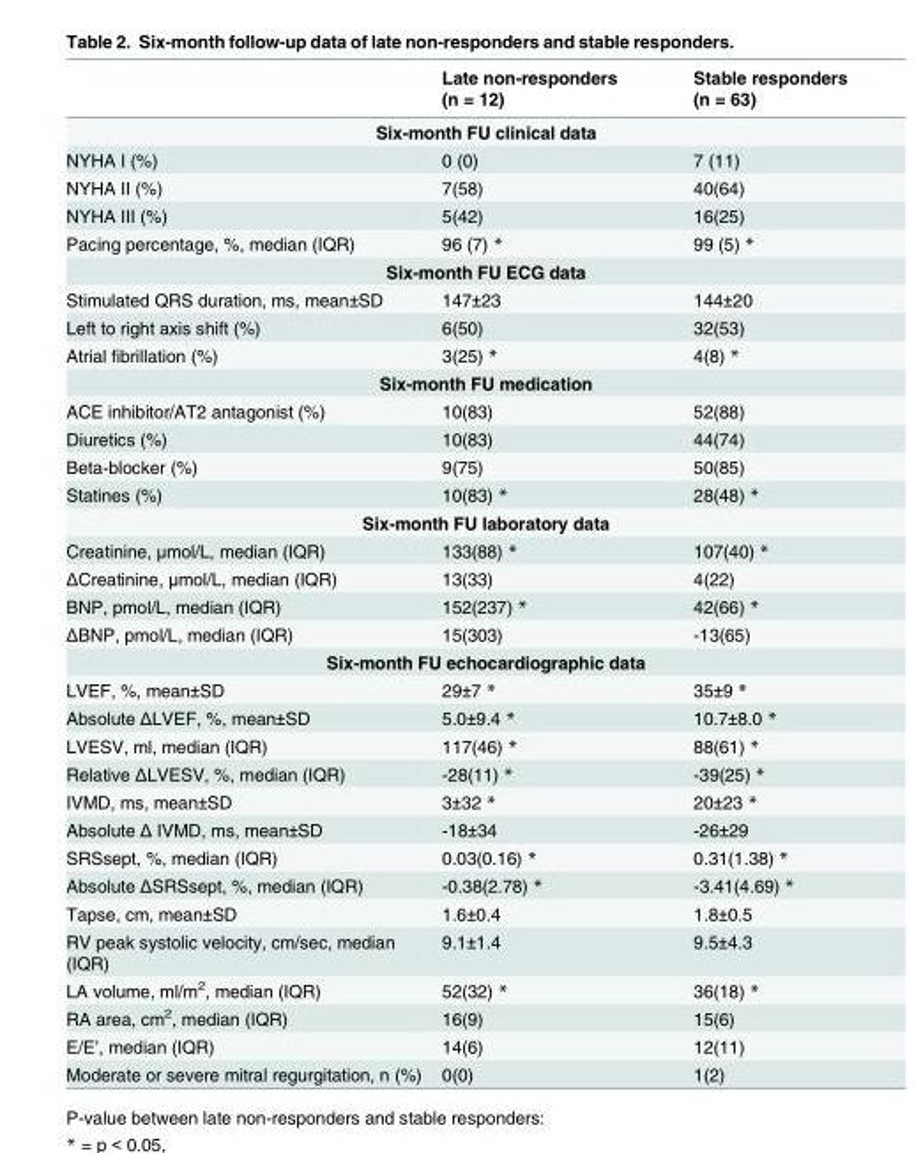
<table><thead><tr><td></td><td>Late non-responders (n = 12)</td><td>Stable responders (n = 63)</td></tr></thead><tbody><tr><td colspan="3">Six-month FU clinical data</td></tr><tr><td>NYHA I (%)</td><td>0 (0)</td><td>7 (11)</td></tr><tr><td>NYHA II (%)</td><td>7(58)</td><td>40(64)</td></tr><tr><td>NYHA III (%)</td><td>5(42)</td><td>16(25)</td></tr><tr><td>Pacing percentage, %, median (IQR)</td><td>96 (7) *</td><td>99 (5) *</td></tr><tr><td colspan="3">Six-month FU ECG data</td></tr><tr><td>Stimulated QRS duration, ms, mean±SD</td><td>147±23</td><td>144±20</td></tr><tr><td>Left to right axis shift (%)</td><td>6(50)</td><td>32(53)</td></tr><tr><td>Atrial fibrillation (%)</td><td>3(25) *</td><td>4(8) *</td></tr><tr><td colspan="3">Six-month FU medication</td></tr><tr><td>ACE inhibitor/AT2 antagonist (%)</td><td>10(83)</td><td>52(88)</td></tr><tr><td>Diuretics (%)</td><td>10(83)</td><td>44(74)</td></tr><tr><td>Beta-blocker (%)</td><td>9(75)</td><td>50(85)</td></tr><tr><td>Statines (%)</td><td>10(83) *</td><td>28(48) *</td></tr><tr><td colspan="3">Six-month FU laboratory data</td></tr><tr><td>Creatinine, μmol/L, median (IQR)</td><td>133(88) *</td><td>107(40) *</td></tr><tr><td>ΔCreatinine, μmol/L, median (IQR)</td><td>13(33)</td><td>4(22)</td></tr><tr><td>BNP, pmol/L, median (IQR)</td><td>152(237) *</td><td>42(66) *</td></tr><tr><td>ΔBNP, pmol/L, median (IQR)</td><td>15(303)</td><td>-13(65)</td></tr><tr><td colspan="3">Six-month FU echocardiographic data</td></tr><tr><td>LVEF, %, mean±SD</td><td>29±7 *</td><td>35±9 *</td></tr><tr><td>Absolute ΔLVEF, %, mean±SD</td><td>5.0±9.4 *</td><td>10.7±8.0 *</td></tr><tr><td>LVESV, ml, median (IQR)</td><td>117(46) *</td><td>88(61) *</td></tr><tr><td>Relative ΔLVESV, %, median (IQR)</td><td>-28(11) *</td><td>-39(25) *</td></tr><tr><td>IVMD, ms, mean±SD</td><td>3±32 *</td><td>20±23 *</td></tr><tr><td>Absolute Δ IVMD, ms, mean±SD</td><td>-18±34</td><td>-26±29</td></tr><tr><td>SRSsept, %, median (IQR)</td><td>0.03(0.16) *</td><td>0.31(1.38) *</td></tr><tr><td>Absolute ΔSRSsept, %, median (IQR)</td><td>-0.38(2.78) *</td><td>-3.41(4.69) *</td></tr><tr><td>Tapse, cm, mean±SD</td><td>1.6±0.4</td><td>1.8±0.5</td></tr><tr><td>RV peak systolic velocity, cm/sec, median (IQR)</td><td>9.1±1.4</td><td>9.5±4.3</td></tr><tr><td>LA volume, ml/m<sup>2</sup>, median (IQR)</td><td>52(32) *</td><td>36(18) *</td></tr><tr><td>RA area, cm<sup>2</sup>, median (IQR)</td><td>16(9)</td><td>15(6)</td></tr><tr><td>E/E’, median (IQR)</td><td>14(6)</td><td>12(11)</td></tr><tr><td>Moderate or severe mitral regurgitation, n (%)</td><td>0(0)</td><td>1(2)</td></tr></tbody></table>